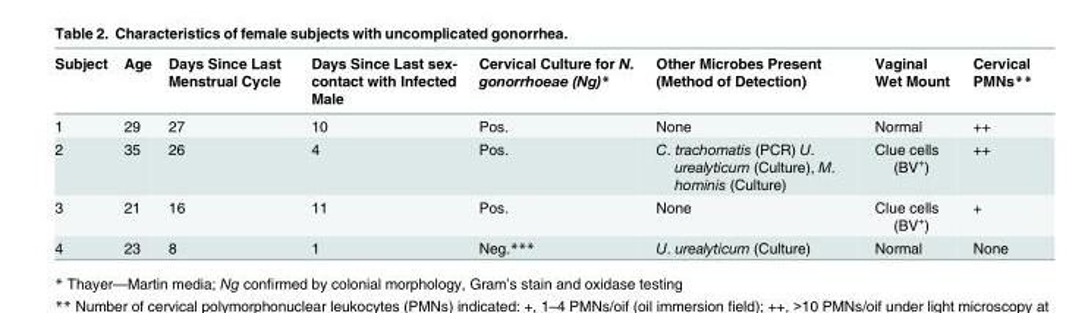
<table><thead><tr><td>Subject</td><td>Age</td><td>Days Since Last Menstrual Cycle</td><td>Days Since Last sex- contact with Infected Male</td><td>Cervical Culture for N. gonorrhoeae (Ng)*</td><td>Other Microbes Present (Method of Detection)</td><td>Vaginal Wet Mount</td><td>Cervical PMNs**</td></tr></thead><tbody><tr><td>1</td><td>29</td><td>27</td><td>10</td><td>Pos.</td><td>None</td><td>Normal</td><td>++</td></tr><tr><td>2</td><td>35</td><td>26</td><td>4</td><td>Pos.</td><td>C. trachomatis (PCR) U. urealyticum (Culture), M. hominis (Culture)</td><td>Clue cells (BV<sup>+</sup>)</td><td>++</td></tr><tr><td>3</td><td>21</td><td>16</td><td>11</td><td>Pos.</td><td>None</td><td>Clue cells (BV<sup>+</sup>)</td><td>+</td></tr><tr><td>4</td><td>23</td><td>8</td><td>1</td><td>Neg.***</td><td>U. urealyticum (Culture)</td><td>Normal</td><td>None</td></tr></tbody></table>